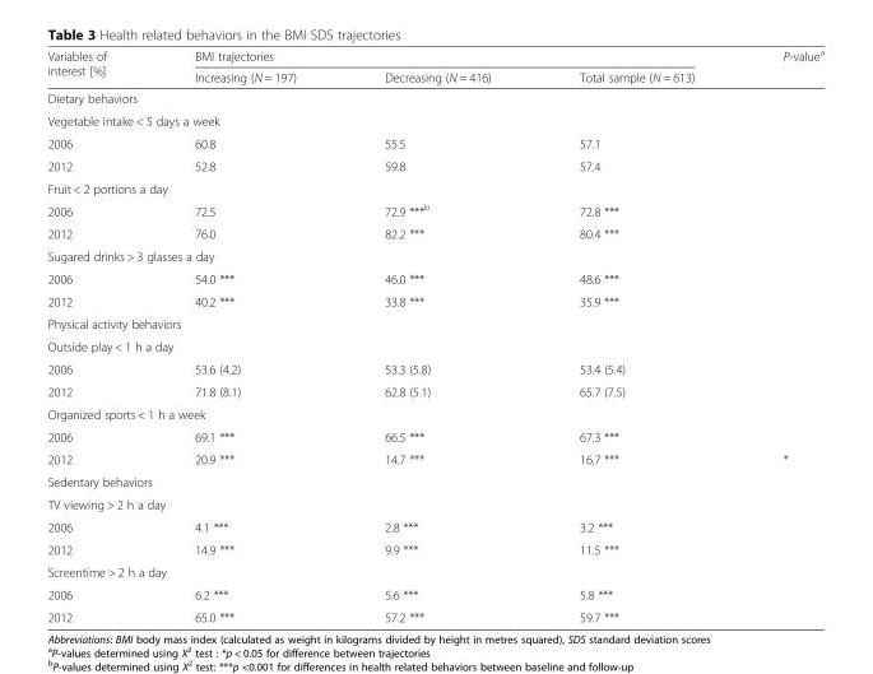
<table><thead><tr><td rowspan="2">Variables of interest [%]</td><td colspan="3">BMI trajectories</td><td rowspan="2">P-value<sup>a</sup></td></tr><tr><td>Increasing (N = 197)</td><td>Decreasing (N = 416)</td><td>Total sample (N = 613)</td></tr></thead><tbody><tr><td colspan="5">Dietary behaviors</td></tr><tr><td colspan="5">Vegetable intake &lt; 5 days a week</td></tr><tr><td>2006</td><td>60.8</td><td>55.5</td><td>57.1</td><td></td></tr><tr><td>2012</td><td>52.8</td><td>59.8</td><td>57.4</td><td></td></tr><tr><td colspan="5">Fruit &lt; 2 portions a day</td></tr><tr><td>2006</td><td>72.5</td><td>72.9 ***<sup>b</sup></td><td>72.8 ***</td><td></td></tr><tr><td>2012</td><td>76.0</td><td>82.2 ***</td><td>80.4 ***</td><td></td></tr><tr><td colspan="5">Sugared drinks &gt; 3 glasses a day</td></tr><tr><td>2006</td><td>54.0 ***</td><td>46.0 ***</td><td>48.6 ***</td><td></td></tr><tr><td>2012</td><td>40.2 ***</td><td>33.8 ***</td><td>35.9 ***</td><td></td></tr><tr><td colspan="5">Physical activity behaviors</td></tr><tr><td colspan="5">Outside play &lt; 1 h a day</td></tr><tr><td>2006</td><td>53.6 (4.2)</td><td>53.3 (5.8)</td><td>53.4 (5.4)</td><td></td></tr><tr><td>2012</td><td>71.8 (8.1)</td><td>62.8 (5.1)</td><td>65.7 (7.5)</td><td></td></tr><tr><td colspan="5">Organized sports &lt; 1 h a week</td></tr><tr><td>2006</td><td>69.1 ***</td><td>66.5 ***</td><td>67.3 ***</td><td></td></tr><tr><td>2012</td><td>20.9 ***</td><td>14.7 ***</td><td>16.7 ***</td><td>*</td></tr><tr><td colspan="5">Sedentary behaviors</td></tr><tr><td colspan="5">TV viewing &gt; 2 h a day</td></tr><tr><td>2006</td><td>4.1 ***</td><td>2.8 ***</td><td>3.2 ***</td><td></td></tr><tr><td>2012</td><td>14.9 ***</td><td>9.9 ***</td><td>11.5 ***</td><td></td></tr><tr><td colspan="5">Screentime &gt; 2 h a day</td></tr><tr><td>2006</td><td>6.2 ***</td><td>5.6 ***</td><td>5.8 ***</td><td></td></tr><tr><td>2012</td><td>65.0 ***</td><td>57.2 ***</td><td>59.7 ***</td><td></td></tr></tbody></table>